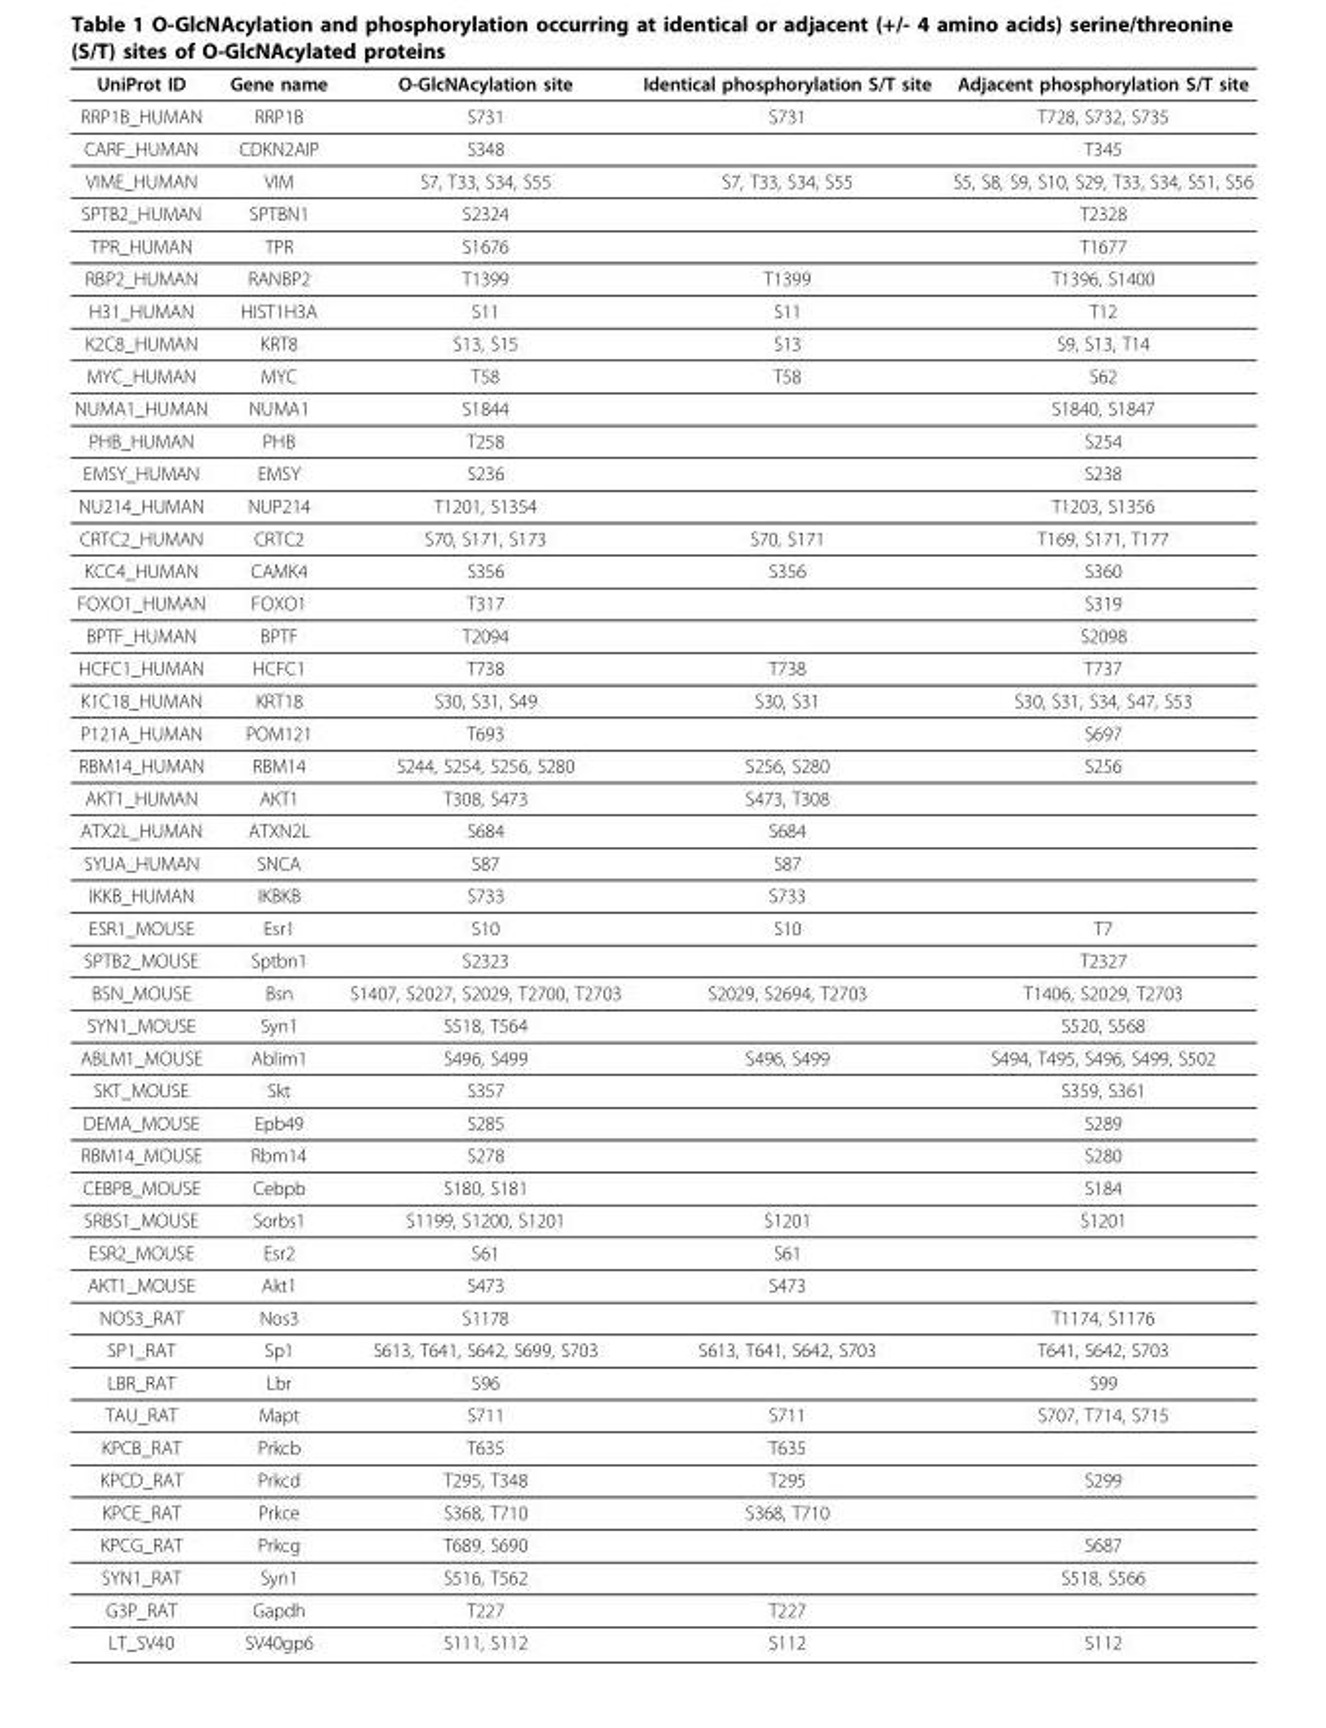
<table><thead><tr><td>UniProt ID</td><td>Gene name</td><td>O-GlcNAcylation site</td><td>Identical phosphorylation S/T site</td><td>Adjacent phosphorylation S/T site</td></tr></thead><tbody><tr><td>RRP1B_HUMAN</td><td>RRP1B</td><td>S731</td><td>S731</td><td>T728, S732, S735</td></tr><tr><td>CARF_HUMAN</td><td>CDKN2AIP</td><td>S348</td><td></td><td>T345</td></tr><tr><td>VIME_HUMAN</td><td>VIM</td><td>S7, T33, S34, S55</td><td>S7, T33, S34, S55</td><td>S5, S8, S9, S10, S29, T33, S34, S51, S56</td></tr><tr><td>SPTB2_HUMAN</td><td>SPTBN1</td><td>S2324</td><td></td><td>T2328</td></tr><tr><td>TPR_HUMAN</td><td>TPR</td><td>S1676</td><td></td><td>T1677</td></tr><tr><td>RBP2_HUMAN</td><td>RANBP2</td><td>T1399</td><td>T1399</td><td>T1396, S1400</td></tr><tr><td>H31_HUMAN</td><td>HIST1H3A</td><td>S11</td><td>S11</td><td>T12</td></tr><tr><td>K2C8_HUMAN</td><td>KRT8</td><td>S13, S15</td><td>S13</td><td>S9, S13, T14</td></tr><tr><td>MYC_HUMAN</td><td>MYC</td><td>T58</td><td>T58</td><td>S62</td></tr><tr><td>NUMA1_HUMAN</td><td>NUMA1</td><td>S1844</td><td></td><td>S1840, S1847</td></tr><tr><td>PHB_HUMAN</td><td>PHB</td><td>T258</td><td></td><td>S254</td></tr><tr><td>EMSY_HUMAN</td><td>EMSY</td><td>S236</td><td></td><td>S238</td></tr><tr><td>NU214_HUMAN</td><td>NUP214</td><td>T1201, S1354</td><td></td><td>T1203, S1356</td></tr><tr><td>CRTC2_HUMAN</td><td>CRTC2</td><td>S70, S171, S173</td><td>S70, S171</td><td>T169, S171, T177</td></tr><tr><td>KCC4_HUMAN</td><td>CAMK4</td><td>S356</td><td>S356</td><td>S360</td></tr><tr><td>FOXO1_HUMAN</td><td>FOXO1</td><td>T317</td><td></td><td>S319</td></tr><tr><td>BPTF_HUMAN</td><td>BPTF</td><td>T2094</td><td></td><td>S2098</td></tr><tr><td>HCFC1_HUMAN</td><td>HCFC1</td><td>T738</td><td>T738</td><td>T737</td></tr><tr><td>K1C18_HUMAN</td><td>KRT18</td><td>S30, S31, S49</td><td>S30, S31</td><td>S30, S31, S34, S47, S53</td></tr><tr><td>P121A_HUMAN</td><td>POM121</td><td>T693</td><td></td><td>S697</td></tr><tr><td>RBM14_HUMAN</td><td>RBM14</td><td>S244, S254, S256, S280</td><td>S256, S280</td><td>S256</td></tr><tr><td>AKT1_HUMAN</td><td>AKT1</td><td>T308, S473</td><td>S473, T308</td><td></td></tr><tr><td>ATX2L_HUMAN</td><td>ATXN2L</td><td>S684</td><td>S684</td><td></td></tr><tr><td>SYUA_HUMAN</td><td>SNCA</td><td>S87</td><td>S87</td><td></td></tr><tr><td>IKKB_HUMAN</td><td>IKBKB</td><td>S733</td><td>S733</td><td></td></tr><tr><td>ESR1_MOUSE</td><td>Esr1</td><td>S10</td><td>S10</td><td>T7</td></tr><tr><td>SPTB2_MOUSE</td><td>Sptbn1</td><td>S2323</td><td></td><td>T2327</td></tr><tr><td>BSN_MOUSE</td><td>Bsn</td><td>S1407, S2027, S2029, T2700, T2703</td><td>S2029, S2694, T2703</td><td>T1406, S2029, T2703</td></tr><tr><td>SYN1_MOUSE</td><td>Syn1</td><td>S518, T564</td><td></td><td>S520, S568</td></tr><tr><td>ABLM1_MOUSE</td><td>Ablim1</td><td>S496, S499</td><td>S496, S499</td><td>S494, T495, S496, S499, S502</td></tr><tr><td>SKT_MOUSE</td><td>Skt</td><td>S357</td><td></td><td>S359, S361</td></tr><tr><td>DEMA_MOUSE</td><td>Epb49</td><td>S285</td><td></td><td>S289</td></tr><tr><td>RBM14_MOUSE</td><td>Rbm14</td><td>S278</td><td></td><td>S280</td></tr><tr><td>CEBPB_MOUSE</td><td>Cebpb</td><td>S180, S181</td><td></td><td>S184</td></tr><tr><td>SRBS1_MOUSE</td><td>Sorbs1</td><td>S1199, S1200, S1201</td><td>S1201</td><td>S1201</td></tr><tr><td>ESR2_MOUSE</td><td>Esr2</td><td>S61</td><td>S61</td><td></td></tr><tr><td>AKT1_MOUSE</td><td>Akt1</td><td>S473</td><td>S473</td><td></td></tr><tr><td>NOS3_RAT</td><td>Nos3</td><td>S1178</td><td></td><td>T1174, S1176</td></tr><tr><td>SP1_RAT</td><td>Sp1</td><td>S613, T641, S642, S699, S703</td><td>S613, T641, S642, S703</td><td>T641, S642, S703</td></tr><tr><td>LBR_RAT</td><td>Lbr</td><td>S96</td><td></td><td>S99</td></tr><tr><td>TAU_RAT</td><td>Mapt</td><td>S711</td><td>S711</td><td>S707, T714, S715</td></tr><tr><td>KPCB_RAT</td><td>Prkcb</td><td>T635</td><td>T635</td><td></td></tr><tr><td>KPCD_RAT</td><td>Prkcd</td><td>T295, T348</td><td>T295</td><td>S299</td></tr><tr><td>KPCE_RAT</td><td>Prkce</td><td>S368, T710</td><td>S368, T710</td><td></td></tr><tr><td>KPCG_RAT</td><td>Prkcg</td><td>T689, S690</td><td></td><td>S687</td></tr><tr><td>SYN1_RAT</td><td>Syn1</td><td>S516, T562</td><td></td><td>S518, S566</td></tr><tr><td>G3P_RAT</td><td>Gapdh</td><td>T227</td><td>T227</td><td></td></tr><tr><td>LT_SV40</td><td>SV40gp6</td><td>S111, S112</td><td>S112</td><td>S112</td></tr></tbody></table>